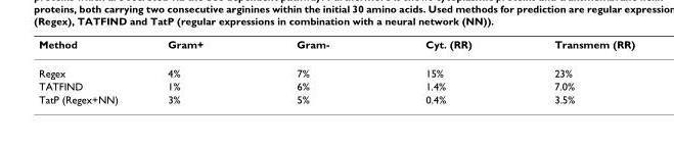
<table><thead><tr><td>Method</td><td>Gram+</td><td>Gram-</td><td>Cyt. (RR)</td><td>Transmem (RR)</td></tr></thead><tbody><tr><td>Regex</td><td>4%</td><td>7%</td><td>15%</td><td>23%</td></tr><tr><td>TATFIND</td><td>1%</td><td>6%</td><td>1.4%</td><td>7.0%</td></tr><tr><td>TatP (Regex+NN)</td><td>3%</td><td>5%</td><td>0.4%</td><td>3.5%</td></tr></tbody></table>